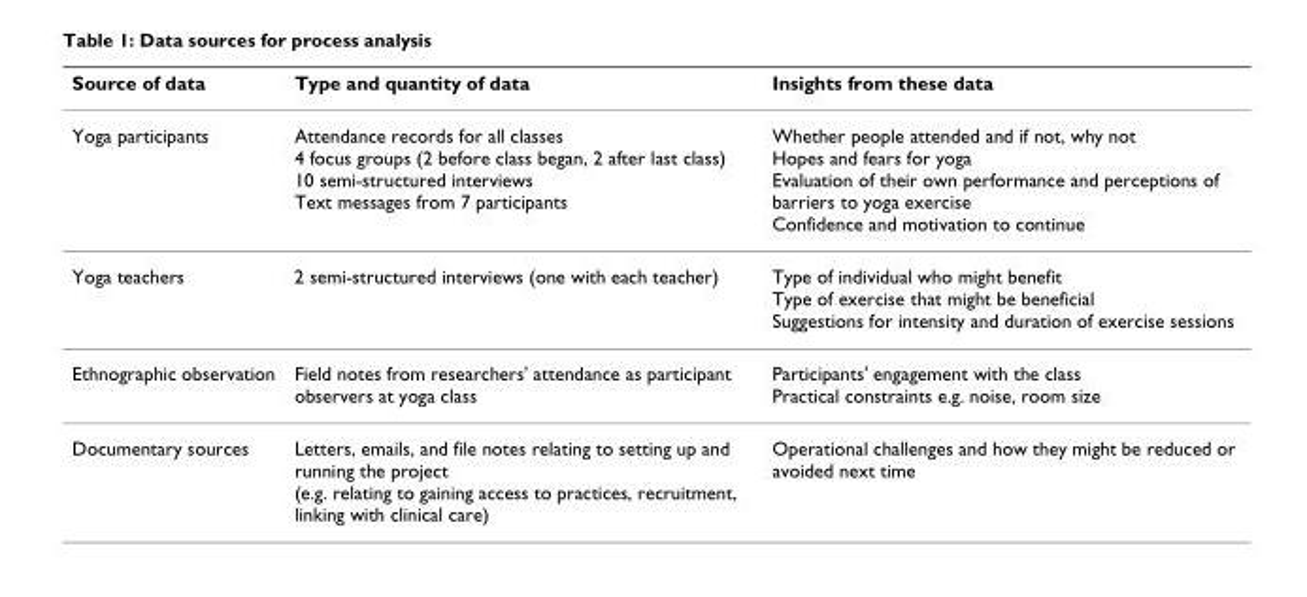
<table><thead><tr><td>Source of data</td><td>Type and quantity of data</td><td>Insights from these data</td></tr></thead><tbody><tr><td>Yoga participants</td><td>Attendance records for all classes 4 focus groups (2 before class began, 2 after last class) 10 semi-structured interviews Text messages from 7 participants</td><td>Whether people attended and if not, why not Hopes and fears for yoga Evaluation of their own performance and perceptions of barriers to yoga exercise Confidence and motivation to continue</td></tr><tr><td>Yoga teachers</td><td>2 semi-structured interviews (one with each teacher)</td><td>Type of individual who might benefit Type of exercise that might be beneficial Suggestions for intensity and duration of exercise sessions</td></tr><tr><td>Ethnographic observation</td><td>Field notes from researchers&#x27; attendance as participant observers at yoga class</td><td>Participants&#x27; engagement with the class Practical constraints e.g. noise, room size</td></tr><tr><td>Documentary sources</td><td>Letters, emails, and file notes relating to setting up and running the project (e.g. relating to gaining access to practices, recruitment, linking with clinical care)</td><td>Operational challenges and how they might be reduced or avoided next time</td></tr></tbody></table>